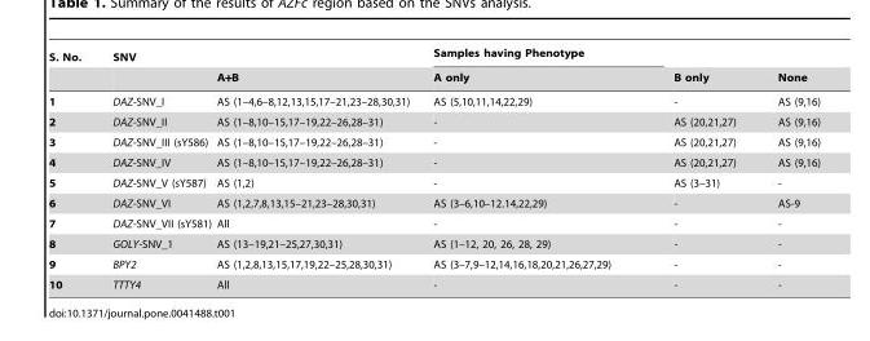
<table><thead><tr><td rowspan="2">S. No.</td><td rowspan="2">SNV</td><td rowspan="2">A+B</td><td rowspan="2">Samples having Phenotype A only</td><td rowspan="2">B only</td><td rowspan="2">None</td></tr><tr></tr></thead><tbody><tr><td>1</td><td>DAZ-SNV_I</td><td>AS (1–4,6–8,12,13,15,17–21,23–28,30,31)</td><td>AS (5,10,11,14,22,29)</td><td>-</td><td>AS (9,16)</td></tr><tr><td>2</td><td>DAZ-SNV_II</td><td>AS (1–8,10–15,17–19,22–26,28–31)</td><td>-</td><td>AS (20,21,27)</td><td>AS (9,16)</td></tr><tr><td>3</td><td>DAZ-SNV_III (sY586)</td><td>AS (1–8,10–15,17–19,22–26,28–31)</td><td>-</td><td>AS (20,21,27)</td><td>AS (9,16)</td></tr><tr><td>4</td><td>DAZ-SNV_IV</td><td>AS (1–8,10–15,17–19,22–26,28–31)</td><td>-</td><td>AS (20,21,27)</td><td>AS (9,16)</td></tr><tr><td>5</td><td>DAZ-SNV_V (sY587)</td><td>AS (1,2)</td><td>-</td><td>AS (3–31)</td><td>-</td></tr><tr><td>6</td><td>DAZ-SNV_VI</td><td>AS (1,2,7,8,13,15–21,23–28,30,31)</td><td>AS (3–6,10–12.14,22,29)</td><td>-</td><td>AS-9</td></tr><tr><td>7</td><td>DAZ-SNV_VII (sY581)</td><td>All</td><td>-</td><td>-</td><td>-</td></tr><tr><td>8</td><td>GOLY-SNV_1</td><td>AS (13–19,21–25,27,30,31)</td><td>AS (1–12, 20, 26, 28, 29)</td><td>-</td><td>-</td></tr><tr><td>9</td><td>BPY2</td><td>AS (1,2,8,13,15,17,19,22–25,28,30,31)</td><td>AS (3–7,9–12,14,16,18,20,21,26,27,29)</td><td>-</td><td>-</td></tr><tr><td>10</td><td>TTTY4</td><td>All</td><td>-</td><td>-</td><td>-</td></tr></tbody></table>